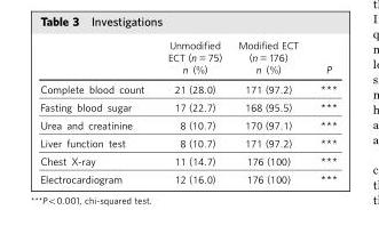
<table><thead><tr><td></td><td>Unmodified ECT (n = 75) n (%)</td><td>Modified ECT (n = 176) n (%)</td><td>P</td></tr></thead><tbody><tr><td>Complete blood count</td><td>21 (28.0)</td><td>171 (97.2)</td><td>***</td></tr><tr><td>Fasting blood sugar</td><td>17 (22.7)</td><td>168 (95.5)</td><td>***</td></tr><tr><td>Urea and creatinine</td><td>8 (10.7)</td><td>170 (97.1)</td><td>***</td></tr><tr><td>Liver function test</td><td>8 (10.7)</td><td>171 (97.2)</td><td>***</td></tr><tr><td>Chest X-ray</td><td>11 (14.7)</td><td>176 (100)</td><td>***</td></tr><tr><td>Electrocardiogram</td><td>12 (16.0)</td><td>176 (100)</td><td>***</td></tr></tbody></table>